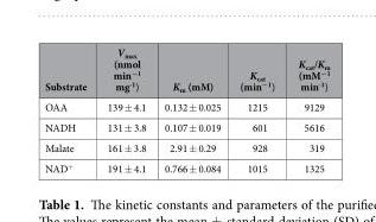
<table><thead><tr><td>Substrate</td><td>V<sub>max</sub> (nmol min<sup>−1</sup> mg<sup>-1</sup>)</td><td>K<sub>m</sub> (mM)</td><td>K<sub>cat</sub> (min<sup>−1</sup>)</td><td>K<sub>cat</sub>/K<sub>m</sub> (mM<sup>−1</sup> min<sup>-1</sup>)</td></tr></thead><tbody><tr><td>OAA</td><td>139 ± 4.1</td><td>0.132 ± 0.025</td><td>1215</td><td>9129</td></tr><tr><td>NADH</td><td>131 ± 3.8</td><td>0.107 ± 0.019</td><td>601</td><td>5616</td></tr><tr><td>Malate</td><td>161 ± 3.8</td><td>2.91 ± 0.29</td><td>928</td><td>319</td></tr><tr><td>NAD<sup>+</sup></td><td>191 ± 4.1</td><td>0.766 ± 0.084</td><td>1015</td><td>1325</td></tr></tbody></table>